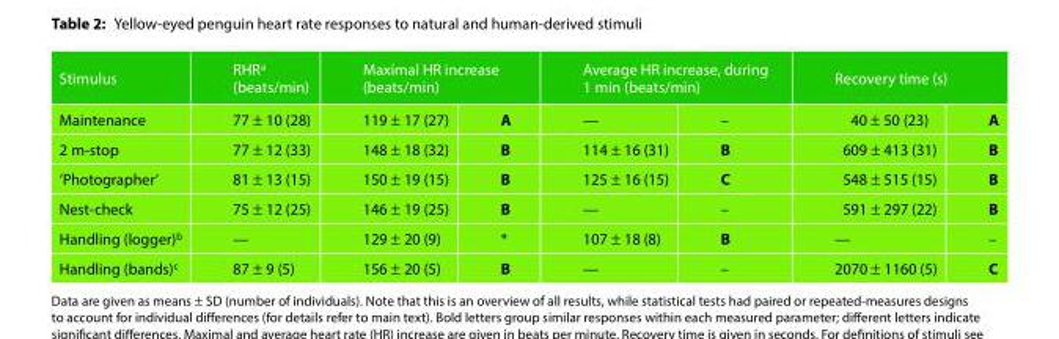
<table><thead><tr><td rowspan="2">Stimulus Maintenance</td><td rowspan="2">RHR<sup>a</sup> (beats/min) 77 ± 10 (28)</td><td colspan="2">Maximal HR increase (beats/min)</td><td colspan="2">Average HR increase, during 1 min (beats/min)</td><td colspan="2">Recovery time (s)</td></tr><tr><td>119 ± 17 (27)</td><td>A</td><td>—</td><td>–</td><td>40 ± 50 (23)</td><td>A</td></tr></thead><tbody><tr><td>2 m-stop</td><td>77 ± 12 (33)</td><td>148 ± 18 (32)</td><td>B</td><td>114 ± 16 (31)</td><td>B</td><td>609 ± 413 (31)</td><td>B</td></tr><tr><td>‘Photographer’</td><td>81 ± 13 (15)</td><td>150 ± 19 (15)</td><td>B</td><td>125 ± 16 (15)</td><td>C</td><td>548 ± 515 (15)</td><td>B</td></tr><tr><td>Nest-check</td><td>75 ± 12 (25)</td><td>146 ± 19 (25)</td><td>B</td><td>—</td><td>–</td><td>591 ± 297 (22)</td><td>B</td></tr><tr><td>Handling (logger)<sup>b</sup></td><td>—</td><td>129 ± 20 (9)</td><td>*</td><td>107 ± 18 (8)</td><td>B</td><td>—</td><td>–</td></tr><tr><td>Handling (bands)<sup>c</sup></td><td>87 ± 9 (5)</td><td>156 ± 20 (5)</td><td>B</td><td>—</td><td>–</td><td>2070 ± 1160 (5)</td><td>C</td></tr></tbody></table>